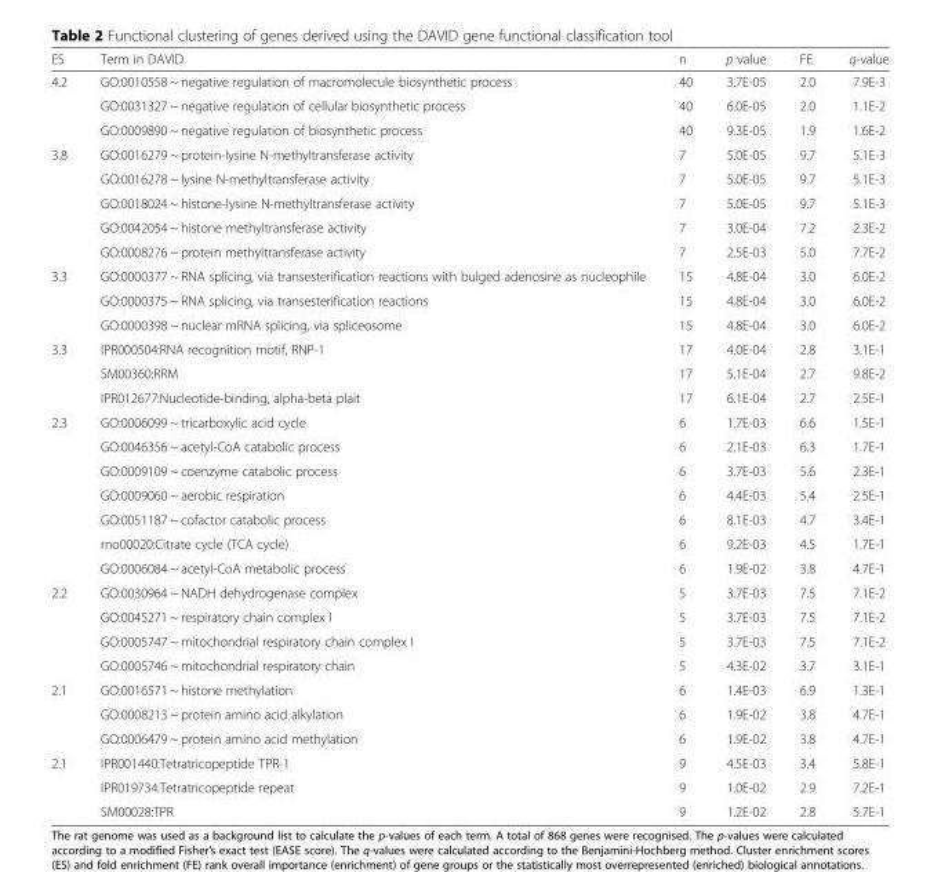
<table><thead><tr><td>ES</td><td>Term in DAVID</td><td>n</td><td>p value</td><td>FE</td><td>q-value</td></tr></thead><tbody><tr><td rowspan="3">4.2</td><td>GO:0010558 ~ negative regulation of macromolecule biosynthetic process</td><td>40</td><td>3.7E-05</td><td>2.0</td><td>7.9E-3</td></tr><tr><td>GO:0031327 ~ negative regulation of cellular biosynthetic process</td><td>40</td><td>6.0E-05</td><td>2.0</td><td>1.1E-2</td></tr><tr><td>GO:0009890 ~ negative regulation of biosynthetic process</td><td>40</td><td>9.3E-05</td><td>1.9</td><td>1.6E-2</td></tr><tr><td rowspan="5">3.8</td><td>GO:0016279 ~ protein-lysine N-methyltransferase activity</td><td>7</td><td>5.0E-05</td><td>9.7</td><td>5.1E-3</td></tr><tr><td>GO:0016278 ~ lysine N-methyltransferase activity</td><td>7</td><td>5.0E-05</td><td>9.7</td><td>5.1E-3</td></tr><tr><td>GO:0018024 ~ histone-lysine N-methyltransferase activity</td><td>7</td><td>5.0E-05</td><td>9.7</td><td>5.1E-3</td></tr><tr><td>GO:0042054 ~ histone methyltransferase activity</td><td>7</td><td>3.0E-04</td><td>7.2</td><td>2.3E-2</td></tr><tr><td>GO:0008276 ~ protein methyltransferase activity</td><td>7</td><td>2.5E-03</td><td>5.0</td><td>7.7E-2</td></tr><tr><td rowspan="3">3.3</td><td>GO:0000377 ~ RNA splicing, via transesterification reactions with bulged adenosine as nucleophile</td><td>15</td><td>4.8E-04</td><td>3.0</td><td>6.0E-2</td></tr><tr><td>GO:0000375 ~ RNA splicing, via transesterification reactions</td><td>15</td><td>4.8E-04</td><td>3.0</td><td>6.0E-2</td></tr><tr><td>GO:0000398 ~ nuclear mRNA splicing, via spliceosome</td><td>15</td><td>4.8E-04</td><td>3.0</td><td>6.0E-2</td></tr><tr><td rowspan="3">3.3</td><td>IPR000504:RNA recognition motif, RNP-1</td><td>17</td><td>4.0E-04</td><td>2.8</td><td>3.1E-1</td></tr><tr><td>SM00360:RRM</td><td>17</td><td>5.1E-04</td><td>2.7</td><td>9.8E-2</td></tr><tr><td>IPR012677:Nucleotide-binding, alpha-beta plait</td><td>17</td><td>6.1E-04</td><td>2.7</td><td>2.5E-1</td></tr><tr><td rowspan="7">2.3</td><td>GO:0006099 ~ tricarboxylic acid cycle</td><td>6</td><td>1.7E-03</td><td>6.6</td><td>1.5E-1</td></tr><tr><td>GO:0046356 ~ acetyl-CoA catabolic process</td><td>6</td><td>2.1E-03</td><td>6.3</td><td>1.7E-1</td></tr><tr><td>GO:0009109 ~ coenzyme catabolic process</td><td>6</td><td>3.7E-03</td><td>5.6</td><td>2.3E-1</td></tr><tr><td>GO:0009060 ~ aerobic respiration</td><td>6</td><td>4.4E-03</td><td>5.4</td><td>2.5E-1</td></tr><tr><td>GO:0051187 ~ cofactor catabolic process</td><td>6</td><td>8.1E-03</td><td>4.7</td><td>3.4E-1</td></tr><tr><td>rno00020:Citrate cycle (TCA cycle)</td><td>6</td><td>9.2E-03</td><td>4.5</td><td>1.7E-1</td></tr><tr><td>GO:0006084 ~ acetyl-CoA metabolic process</td><td>6</td><td>1.9E-02</td><td>3.8</td><td>4.7E-1</td></tr><tr><td rowspan="4">2.2</td><td>GO:0030964 ~ NADH dehydrogenase complex</td><td>5</td><td>3.7E-03</td><td>7.5</td><td>7.1E-2</td></tr><tr><td>GO:0045271 ~ respiratory chain complex I</td><td>5</td><td>3.7E-03</td><td>7.5</td><td>7.1E-2</td></tr><tr><td>GO:0005747 ~ mitochondrial respiratory chain complex I</td><td>5</td><td>3.7E-03</td><td>7.5</td><td>7.1E-2</td></tr><tr><td>GO:0005746 ~ mitochondrial respiratory chain</td><td>5</td><td>4.3E-02</td><td>3.7</td><td>3.1E-1</td></tr><tr><td rowspan="3">2.1</td><td>GO:0016571 ~ histone methylation</td><td>6</td><td>1.4E-03</td><td>6.9</td><td>1.3E-1</td></tr><tr><td>GO:0008213 ~ protein amino acid alkylation</td><td>6</td><td>1.9E-02</td><td>3.8</td><td>4.7E-1</td></tr><tr><td>GO:0006479 ~ protein amino acid methylation</td><td>6</td><td>1.9E-02</td><td>3.8</td><td>4.7E-1</td></tr><tr><td rowspan="3">2.1</td><td>IPR001440:Tetratricopeptide TPR-1</td><td>9</td><td>4.5E-03</td><td>3.4</td><td>5.8E-1</td></tr><tr><td>IPR019734:Tetratricopeptide repeat</td><td>9</td><td>1.0E-02</td><td>2.9</td><td>7.2E-1</td></tr><tr><td>SM00028:TPR</td><td>9</td><td>1.2E-02</td><td>2.8</td><td>5.7E-1</td></tr></tbody></table>